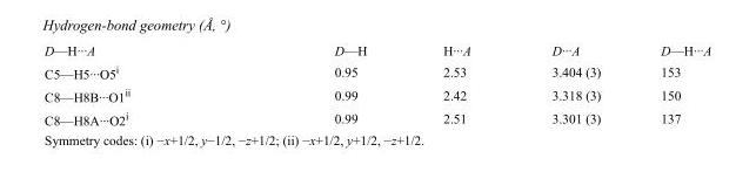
<table><tbody><tr><td>D—H···A</td><td>D—H</td><td>H···A</td><td>D···A</td><td>D—H···A</td></tr><tr><td>C5—H5···O5<sup>i</sup></td><td>0.95</td><td>2.53</td><td>3.404 (3)</td><td>153</td></tr><tr><td>C8—H8B···O1<sup>ii</sup></td><td>0.99</td><td>2.42</td><td>3.318 (3)</td><td>150</td></tr><tr><td>C8—H8A···O2<sup>i</sup></td><td>0.99</td><td>2.51</td><td>3.301 (3)</td><td>137</td></tr></tbody></table>